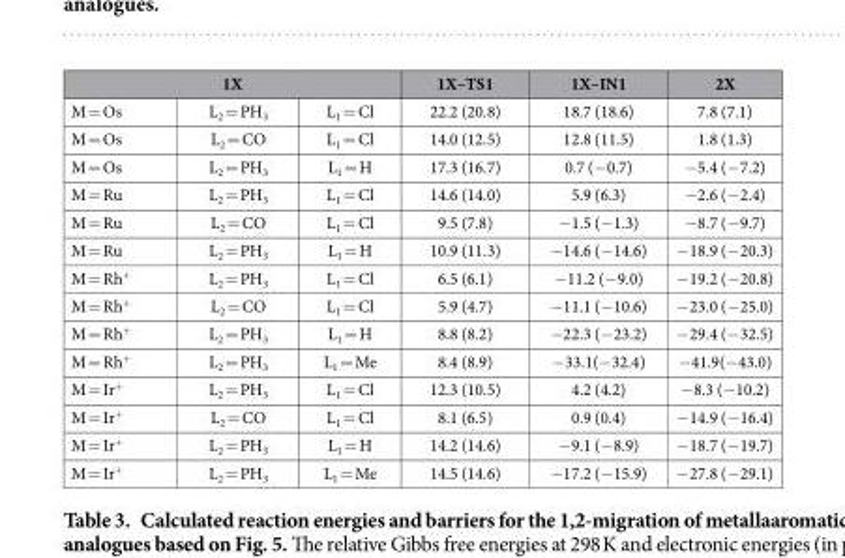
<table><thead><tr><td colspan="3">1X</td><td rowspan="2">1X–TS1 22.2 (20.8)</td><td rowspan="2">1X–IN1 18.7 (18.6)</td><td rowspan="2">2X 7.8 (7.1)</td></tr><tr><td>M = Os</td><td>L<sub>2</sub> = PH<sub>3</sub></td><td>L<sub>1</sub> = Cl</td></tr></thead><tbody><tr><td>M = Os</td><td>L<sub>2</sub> = CO</td><td>L<sub>1</sub> = Cl</td><td>14.0 (12.5)</td><td>12.8 (11.5)</td><td>1.8 (1.3)</td></tr><tr><td>M = Os</td><td>L<sub>2</sub> = PH<sub>3</sub></td><td>L<sub>1</sub> = H</td><td>17.3 (16.7)</td><td>0.7 (− 0.7)</td><td>− 5.4 (− 7.2)</td></tr><tr><td>M = Ru</td><td>L<sub>2</sub> = PH<sub>3</sub></td><td>L<sub>1</sub> = Cl</td><td>14.6 (14.0)</td><td>5.9 (6.3)</td><td>− 2.6 (− 2.4)</td></tr><tr><td>M = Ru</td><td>L<sub>2</sub> = CO</td><td>L<sub>1</sub> = Cl</td><td>9.5 (7.8)</td><td>− 1.5 (− 1.3)</td><td>− 8.7 (− 9.7)</td></tr><tr><td>M = Ru</td><td>L<sub>2</sub> = PH<sub>3</sub></td><td>L<sub>1</sub> = H</td><td>10.9 (11.3)</td><td>− 14.6 (− 14.6)</td><td>− 18.9 (− 20.3)</td></tr><tr><td>M = Rh<sup>+</sup></td><td>L<sub>2</sub> = PH<sub>3</sub></td><td>L<sub>1</sub> = Cl</td><td>6.5 (6.1)</td><td>− 11.2 (− 9.0)</td><td>− 19.2 (− 20.8)</td></tr><tr><td>M = Rh<sup>+</sup></td><td>L<sub>2</sub> = CO</td><td>L<sub>1</sub> = Cl</td><td>5.9 (4.7)</td><td>− 11.1 (− 10.6)</td><td>− 23.0 (− 25.0)</td></tr><tr><td>M = Rh<sup>+</sup></td><td>L<sub>2</sub> = PH<sub>3</sub></td><td>L<sub>1</sub> = H</td><td>8.8 (8.2)</td><td>− 22.3 (− 23.2)</td><td>− 29.4 (− 32.5)</td></tr><tr><td>M = Rh<sup>+</sup></td><td>L<sub>2</sub> = PH<sub>3</sub></td><td>L<sub>1</sub> = Me</td><td>8.4 (8.9)</td><td>− 33.1(− 32.4)</td><td>− 41.9(− 43.0)</td></tr><tr><td>M = Ir<sup>+</sup></td><td>L<sub>2</sub> = PH<sub>3</sub></td><td>L<sub>1</sub> = Cl</td><td>12.3 (10.5)</td><td>4.2 (4.2)</td><td>− 8.3 (− 10.2)</td></tr><tr><td>M = Ir<sup>+</sup></td><td>L<sub>2</sub> = CO</td><td>L<sub>1</sub> = Cl</td><td>8.1 (6.5)</td><td>0.9 (0.4)</td><td>− 14.9 (− 16.4)</td></tr><tr><td>M = Ir<sup>+</sup></td><td>L<sub>2</sub> = PH<sub>3</sub></td><td>L<sub>1</sub> = H</td><td>14.2 (14.6)</td><td>− 9.1 (− 8.9)</td><td>− 18.7 (− 19.7)</td></tr><tr><td>M = Ir<sup>+</sup></td><td>L<sub>2</sub> = PH<sub>3</sub></td><td>L<sub>1</sub> = Me</td><td>14.5 (14.6)</td><td>− 17.2 (− 15.9)</td><td>− 27.8 (− 29.1)</td></tr></tbody></table>